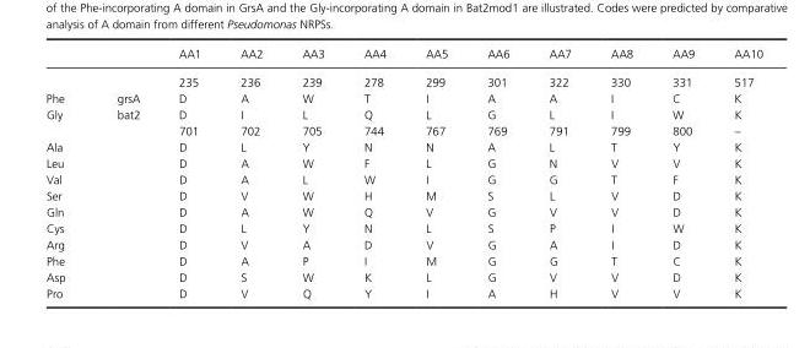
<table><thead><tr><td></td><td></td><td>AA1</td><td>AA2</td><td>AA3</td><td>AA4</td><td>AA5</td><td>AA6</td><td>AA7</td><td>AA8</td><td>AA9</td><td>AA10</td></tr></thead><tbody><tr><td colspan="2"></td><td>235</td><td>236</td><td>239</td><td>278</td><td>299</td><td>301</td><td>322</td><td>330</td><td>331</td><td>517</td></tr><tr><td>Phe</td><td>grsA</td><td>D</td><td>A</td><td>W</td><td>T</td><td>I</td><td>A</td><td>A</td><td>I</td><td>C</td><td>K</td></tr><tr><td rowspan="2">Gly</td><td>bat2</td><td>D</td><td>I</td><td>L</td><td>Q</td><td>L</td><td>G</td><td>L</td><td>I</td><td>W</td><td>K</td></tr><tr><td></td><td>701</td><td>702</td><td>705</td><td>744</td><td>767</td><td>769</td><td>791</td><td>799</td><td>800</td><td>–</td></tr><tr><td>Ala</td><td></td><td>D</td><td>L</td><td>Y</td><td>N</td><td>N</td><td>A</td><td>L</td><td>T</td><td>Y</td><td>K</td></tr><tr><td>Leu</td><td></td><td>D</td><td>A</td><td>W</td><td>F</td><td>L</td><td>G</td><td>N</td><td>V</td><td>V</td><td>K</td></tr><tr><td>Val</td><td></td><td>D</td><td>A</td><td>L</td><td>W</td><td>I</td><td>G</td><td>G</td><td>T</td><td>F</td><td>K</td></tr><tr><td>Ser</td><td></td><td>D</td><td>V</td><td>W</td><td>H</td><td>M</td><td>S</td><td>L</td><td>V</td><td>D</td><td>K</td></tr><tr><td>Gln</td><td></td><td>D</td><td>A</td><td>W</td><td>Q</td><td>V</td><td>G</td><td>V</td><td>V</td><td>D</td><td>K</td></tr><tr><td>Cys</td><td></td><td>D</td><td>L</td><td>Y</td><td>N</td><td>L</td><td>S</td><td>P</td><td>I</td><td>W</td><td>K</td></tr><tr><td>Arg</td><td></td><td>D</td><td>V</td><td>A</td><td>D</td><td>V</td><td>G</td><td>A</td><td>I</td><td>D</td><td>K</td></tr><tr><td>Phe</td><td></td><td>D</td><td>A</td><td>P</td><td>I</td><td>M</td><td>G</td><td>G</td><td>T</td><td>C</td><td>K</td></tr><tr><td>Asp</td><td></td><td>D</td><td>S</td><td>W</td><td>K</td><td>L</td><td>G</td><td>V</td><td>V</td><td>D</td><td>K</td></tr><tr><td>Pro</td><td></td><td>D</td><td>V</td><td>Q</td><td>Y</td><td>I</td><td>A</td><td>H</td><td>V</td><td>V</td><td>K</td></tr></tbody></table>